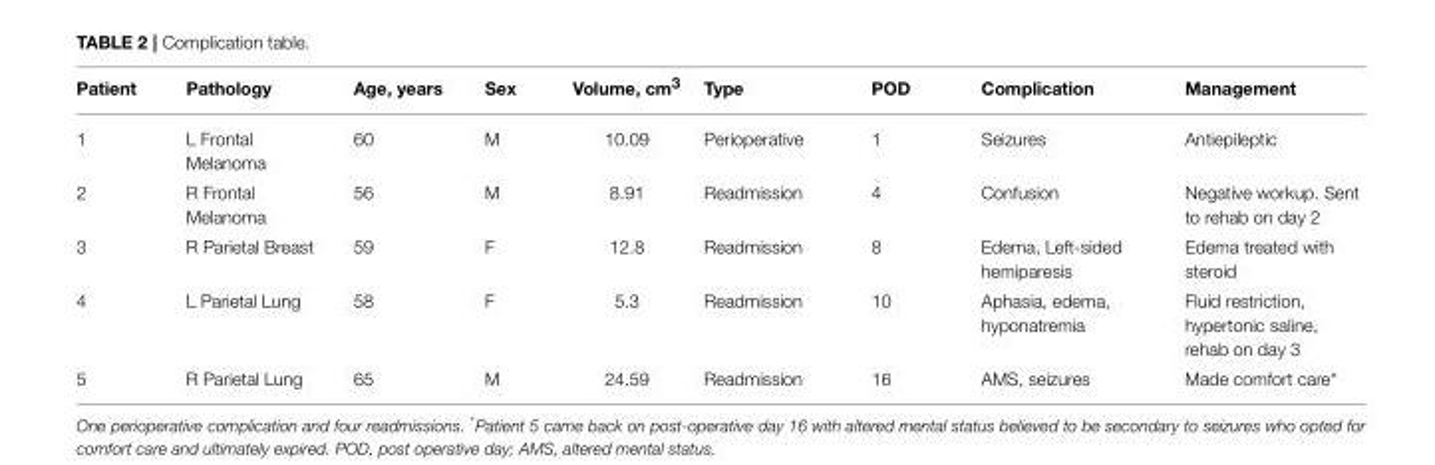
<table><thead><tr><td>Patient</td><td>Pathology</td><td>Age, years</td><td>Sex</td><td>Volume, cm<sup>3</sup></td><td>Type</td><td>POD</td><td>Complication</td><td>Management</td></tr></thead><tbody><tr><td>1</td><td>L Frontal Melanoma</td><td>60</td><td>M</td><td>10.09</td><td>Perioperative</td><td>1</td><td>Seizures</td><td>Antiepileptic</td></tr><tr><td>2</td><td>R Frontal Melanoma</td><td>56</td><td>M</td><td>8.91</td><td>Readmission</td><td>4</td><td>Confusion</td><td>Negative workup. Sent to rehab on day 2</td></tr><tr><td>3</td><td>R Parietal Breast</td><td>59</td><td>F</td><td>12.8</td><td>Readmission</td><td>8</td><td>Edema, Left-sided hemiparesis</td><td>Edema treated with steroid</td></tr><tr><td>4</td><td>L Parietal Lung</td><td>58</td><td>F</td><td>5.3</td><td>Readmission</td><td>10</td><td>Aphasia, edema, hyponatremia</td><td>Fluid restriction, hypertonic saline, rehab on day 3</td></tr><tr><td>5</td><td>R Parietal Lung</td><td>65</td><td>M</td><td>24.59</td><td>Readmission</td><td>16</td><td>AMS, seizures</td><td>Made comfort care*</td></tr></tbody></table>